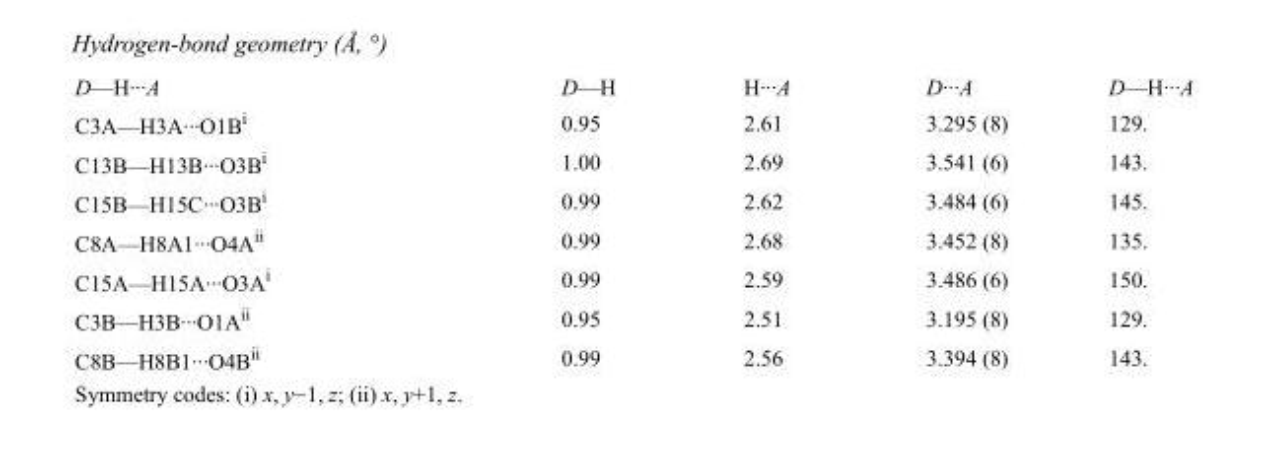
<table><tbody><tr><td>D—H···A</td><td>D—H</td><td>H···A</td><td>D···A</td><td>D—H···A</td></tr><tr><td>C3A—H3A···O1B<sup>i</sup></td><td>0.95</td><td>2.61</td><td>3.295 (8)</td><td>129.</td></tr><tr><td>C13B—H13B···O3B<sup>i</sup></td><td>1.00</td><td>2.69</td><td>3.541 (6)</td><td>143.</td></tr><tr><td>C15B—H15C···O3B<sup>i</sup></td><td>0.99</td><td>2.62</td><td>3.484 (6)</td><td>145.</td></tr><tr><td>C8A—H8A1···O4A<sup>ii</sup></td><td>0.99</td><td>2.68</td><td>3.452 (8)</td><td>135.</td></tr><tr><td>C15A—H15A···O3A<sup>i</sup></td><td>0.99</td><td>2.59</td><td>3.486 (6)</td><td>150.</td></tr><tr><td>C3B—H3B···O1A<sup>ii</sup></td><td>0.95</td><td>2.51</td><td>3.195 (8)</td><td>129.</td></tr><tr><td>C8B—H8B1···O4B<sup>ii</sup></td><td>0.99</td><td>2.56</td><td>3.394 (8)</td><td>143.</td></tr></tbody></table>